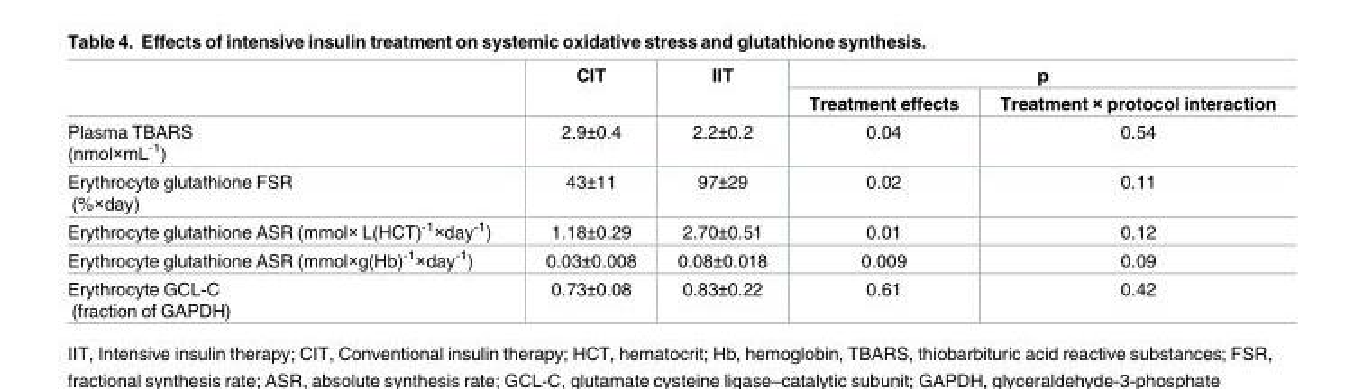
<table><thead><tr><td rowspan="2"></td><td rowspan="2">CIT</td><td rowspan="2">IIT</td><td colspan="2">p</td></tr><tr><td>Treatment effects</td><td>Treatment × protocol interaction</td></tr></thead><tbody><tr><td>Plasma TBARS (nmol×mL<sup>-1</sup>)</td><td>2.9±0.4</td><td>2.2±0.2</td><td>0.04</td><td>0.54</td></tr><tr><td>Erythrocyte glutathione FSR (%×day)</td><td>43±11</td><td>97±29</td><td>0.02</td><td>0.11</td></tr><tr><td>Erythrocyte glutathione ASR (mmol× L(HCT)<sup>-1</sup>×day<sup>-1</sup>)</td><td>1.18±0.29</td><td>2.70±0.51</td><td>0.01</td><td>0.12</td></tr><tr><td>Erythrocyte glutathione ASR (mmol×g(Hb)<sup>-1</sup>×day<sup>-1</sup>)</td><td>0.03±0.008</td><td>0.08±0.018</td><td>0.009</td><td>0.09</td></tr><tr><td>Erythrocyte GCL-C (fraction of GAPDH)</td><td>0.73±0.08</td><td>0.83±0.22</td><td>0.61</td><td>0.42</td></tr></tbody></table>